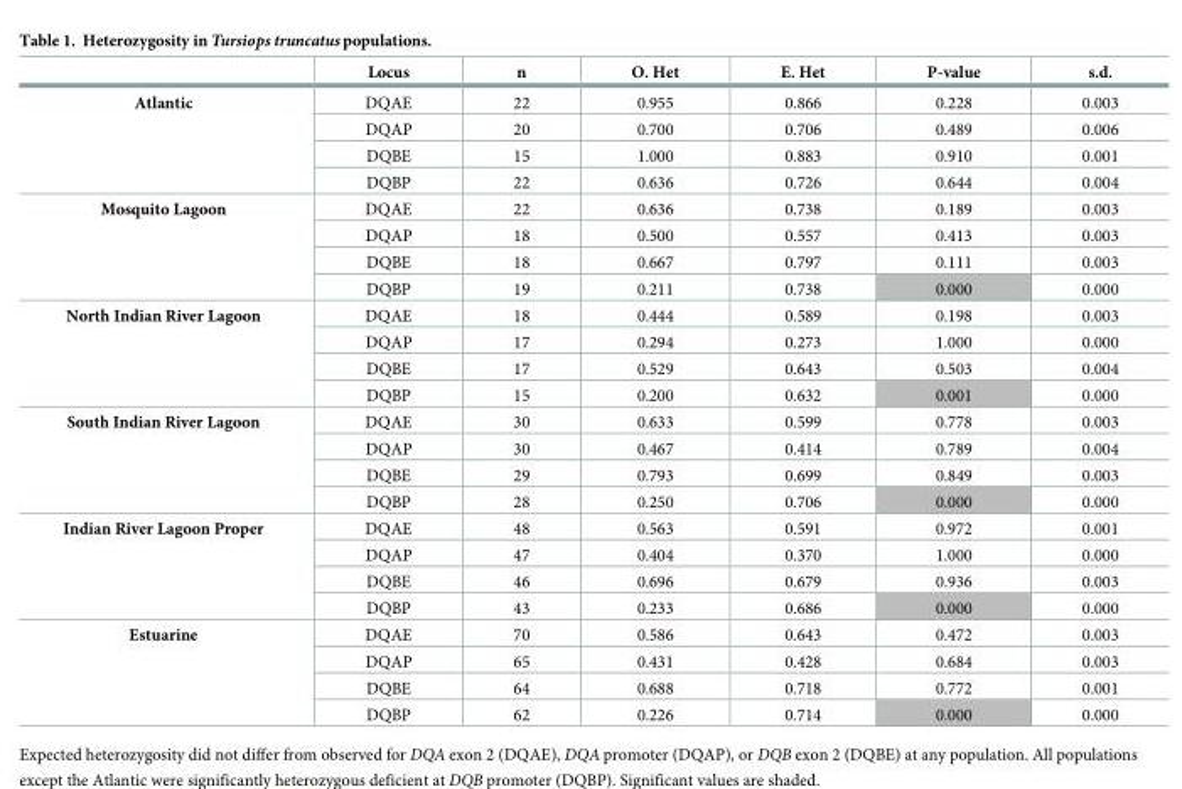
<table><thead><tr><td></td><td>Locus</td><td>n</td><td>O. Het</td><td>E. Het</td><td>P-value</td><td>s.d.</td></tr></thead><tbody><tr><td rowspan="4">Atlantic</td><td>DQAE</td><td>22</td><td>0.955</td><td>0.866</td><td>0.228</td><td>0.003</td></tr><tr><td>DQAP</td><td>20</td><td>0.700</td><td>0.706</td><td>0.489</td><td>0.006</td></tr><tr><td>DQBE</td><td>15</td><td>1.000</td><td>0.883</td><td>0.910</td><td>0.001</td></tr><tr><td>DQBP</td><td>22</td><td>0.636</td><td>0.726</td><td>0.644</td><td>0.004</td></tr><tr><td rowspan="4">Mosquito Lagoon</td><td>DQAE</td><td>22</td><td>0.636</td><td>0.738</td><td>0.189</td><td>0.003</td></tr><tr><td>DQAP</td><td>18</td><td>0.500</td><td>0.557</td><td>0.413</td><td>0.003</td></tr><tr><td>DQBE</td><td>18</td><td>0.667</td><td>0.797</td><td>0.111</td><td>0.003</td></tr><tr><td>DQBP</td><td>19</td><td>0.211</td><td>0.738</td><td>0.000</td><td>0.000</td></tr><tr><td rowspan="4">North Indian River Lagoon</td><td>DQAE</td><td>18</td><td>0.444</td><td>0.589</td><td>0.198</td><td>0.003</td></tr><tr><td>DQAP</td><td>17</td><td>0.294</td><td>0.273</td><td>1.000</td><td>0.000</td></tr><tr><td>DQBE</td><td>17</td><td>0.529</td><td>0.643</td><td>0.503</td><td>0.004</td></tr><tr><td>DQBP</td><td>15</td><td>0.200</td><td>0.632</td><td>0.001</td><td>0.000</td></tr><tr><td rowspan="4">South Indian River Lagoon</td><td>DQAE</td><td>30</td><td>0.633</td><td>0.599</td><td>0.778</td><td>0.003</td></tr><tr><td>DQAP</td><td>30</td><td>0.467</td><td>0.414</td><td>0.789</td><td>0.004</td></tr><tr><td>DQBE</td><td>29</td><td>0.793</td><td>0.699</td><td>0.849</td><td>0.003</td></tr><tr><td>DQBP</td><td>28</td><td>0.250</td><td>0.706</td><td>0.000</td><td>0.000</td></tr><tr><td rowspan="4">Indian River Lagoon Proper</td><td>DQAE</td><td>48</td><td>0.563</td><td>0.591</td><td>0.972</td><td>0.001</td></tr><tr><td>DQAP</td><td>47</td><td>0.404</td><td>0.370</td><td>1.000</td><td>0.000</td></tr><tr><td>DQBE</td><td>46</td><td>0.696</td><td>0.679</td><td>0.936</td><td>0.003</td></tr><tr><td>DQBP</td><td>43</td><td>0.233</td><td>0.686</td><td>0.000</td><td>0.000</td></tr><tr><td rowspan="4">Estuarine</td><td>DQAE</td><td>70</td><td>0.586</td><td>0.643</td><td>0.472</td><td>0.003</td></tr><tr><td>DQAP</td><td>65</td><td>0.431</td><td>0.428</td><td>0.684</td><td>0.003</td></tr><tr><td>DQBE</td><td>64</td><td>0.688</td><td>0.718</td><td>0.772</td><td>0.001</td></tr><tr><td>DQBP</td><td>62</td><td>0.226</td><td>0.714</td><td>0.000</td><td>0.000</td></tr></tbody></table>